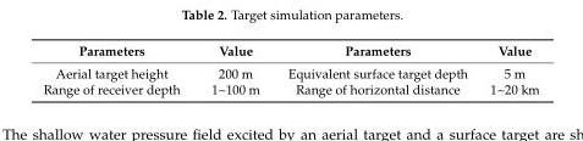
<table><thead><tr><td>Parameters</td><td>Value</td><td>Parameters</td><td>Value</td></tr></thead><tbody><tr><td>Aerial target height</td><td>200 m</td><td>Equivalent surface target depth</td><td>5 m</td></tr><tr><td>Range of receiver depth</td><td>1~100 m</td><td>Range of horizontal distance</td><td>1~20 km</td></tr></tbody></table>